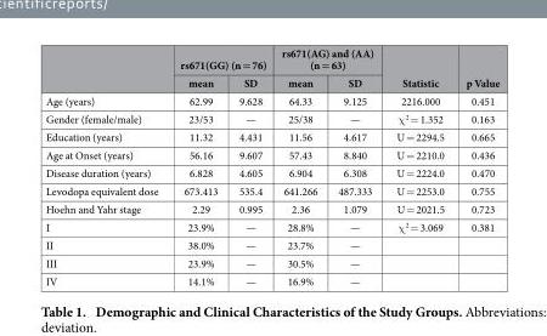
<table><thead><tr><td rowspan="2"></td><td colspan="2">rs671(GG) (n = 76)</td><td colspan="2">rs671(AG) and (AA) (n = 63)</td><td rowspan="2">Statistic</td><td rowspan="2">p Value</td></tr><tr><td>mean</td><td>SD</td><td>mean</td><td>SD</td></tr></thead><tbody><tr><td>Age (years)</td><td>62.99</td><td>9.628</td><td>64.33</td><td>9.125</td><td>2216.000</td><td>0.451</td></tr><tr><td>Gender (female/male)</td><td>23/53</td><td>—</td><td>25/38</td><td>—</td><td>χ <sup>2</sup> = 1.352</td><td>0.163</td></tr><tr><td>Education (years)</td><td>11.32</td><td>4.431</td><td>11.56</td><td>4.617</td><td>U = 2294.5</td><td>0.665</td></tr><tr><td>Age at Onset (years)</td><td>56.16</td><td>9.607</td><td>57.43</td><td>8.840</td><td>U = 2210.0</td><td>0.436</td></tr><tr><td>Disease duration (years)</td><td>6.828</td><td>4.605</td><td>6.904</td><td>6.308</td><td>U = 2224.0</td><td>0.470</td></tr><tr><td>Levodopa equivalent dose</td><td>673.413</td><td>535.4</td><td>641.266</td><td>487.333</td><td>U = 2253.0</td><td>0.755</td></tr><tr><td>Hoehn and Yahr stage</td><td>2.29</td><td>0.995</td><td>2.36</td><td>1.079</td><td>U = 2021.5</td><td>0.723</td></tr><tr><td>I</td><td>23.9%</td><td>—</td><td>28.8%</td><td>—</td><td>χ <sup>2</sup> = 3.069</td><td>0.381</td></tr><tr><td>II</td><td>38.0%</td><td>—</td><td>23.7%</td><td>—</td><td></td><td></td></tr><tr><td>III</td><td>23.9%</td><td>—</td><td>30.5%</td><td>—</td><td></td><td></td></tr><tr><td>IV</td><td>14.1%</td><td>—</td><td>16.9%</td><td>—</td><td></td><td></td></tr></tbody></table>